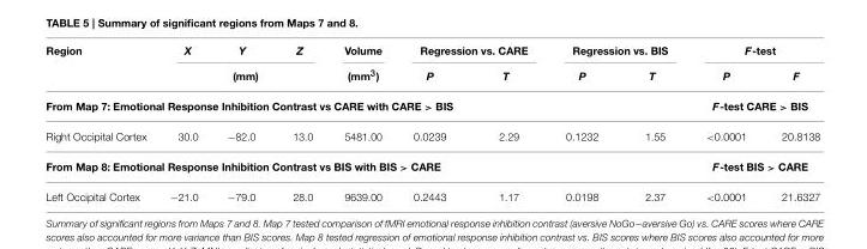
<table><thead><tr><td rowspan="2">Region</td><td>X</td><td>Y</td><td>Z</td><td rowspan="2">Volume (mm<sup>3</sup>)</td><td colspan="2">Regression vs. CARE</td><td colspan="2">Regression vs. BIS</td><td colspan="2">F-test</td></tr><tr><td colspan="3">(mm)</td><td>P</td><td>T</td><td>P</td><td>T</td><td>P</td><td>F</td></tr></thead><tbody><tr><td colspan="9">From Map 7: Emotional Response Inhibition Contrast vs CARE with CARE &gt; BIS</td><td colspan="2">F-test CARE &gt; BIS</td></tr><tr><td>Right Occipital Cortex</td><td>30.0</td><td>−82.0</td><td>13.0</td><td>5481.00</td><td>0.0239</td><td>2.29</td><td>0.1232</td><td>1.55</td><td>&lt;0.0001</td><td>20.8138</td></tr><tr><td colspan="9">From Map 8: Emotional Response Inhibition Contrast vs BIS with BIS &gt; CARE</td><td colspan="2">F-test BIS &gt; CARE</td></tr><tr><td>Left Occipital Cortex</td><td>−21.0</td><td>−79.0</td><td>28.0</td><td>9639.00</td><td>0.2443</td><td>1.17</td><td>0.0198</td><td>2.37</td><td>&lt;0.0001</td><td>21.6327</td></tr></tbody></table>